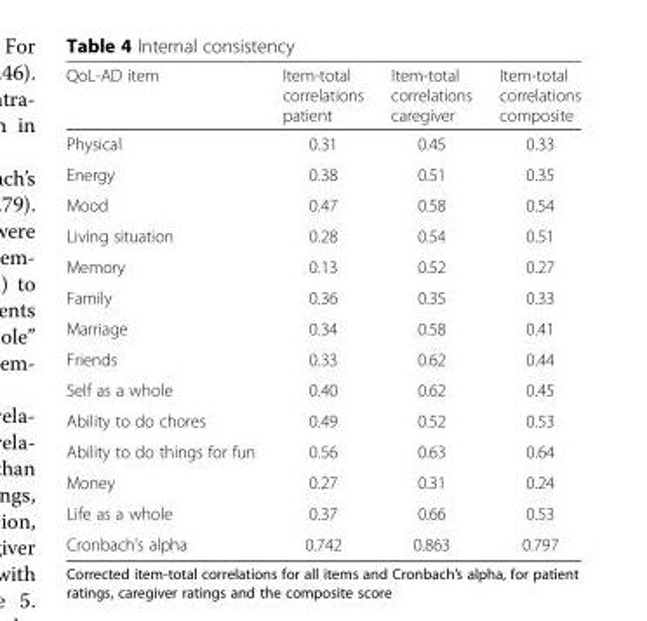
<table><thead><tr><td>QoL-AD item</td><td>Item-total correlations patient</td><td>Item-total correlations caregiver</td><td>Item-total correlations composite</td></tr></thead><tbody><tr><td>Physical</td><td>0.31</td><td>0.45</td><td>0.33</td></tr><tr><td>Energy</td><td>0.38</td><td>0.51</td><td>0.35</td></tr><tr><td>Mood</td><td>0.47</td><td>0.58</td><td>0.54</td></tr><tr><td>Living situation</td><td>0.28</td><td>0.54</td><td>0.51</td></tr><tr><td>Memory</td><td>0.13</td><td>0.52</td><td>0.27</td></tr><tr><td>Family</td><td>0.36</td><td>0.35</td><td>0.33</td></tr><tr><td>Marriage</td><td>0.34</td><td>0.58</td><td>0.41</td></tr><tr><td>Friends</td><td>0.33</td><td>0.62</td><td>0.44</td></tr><tr><td>Self as a whole</td><td>0.40</td><td>0.62</td><td>0.45</td></tr><tr><td>Ability to do chores</td><td>0.49</td><td>0.52</td><td>0.53</td></tr><tr><td>Ability to do things for fun</td><td>0.56</td><td>0.63</td><td>0.64</td></tr><tr><td>Money</td><td>0.27</td><td>0.31</td><td>0.24</td></tr><tr><td>Life as a whole</td><td>0.37</td><td>0.66</td><td>0.53</td></tr><tr><td>Cronbach’s alpha</td><td>0.742</td><td>0.863</td><td>0.797</td></tr></tbody></table>